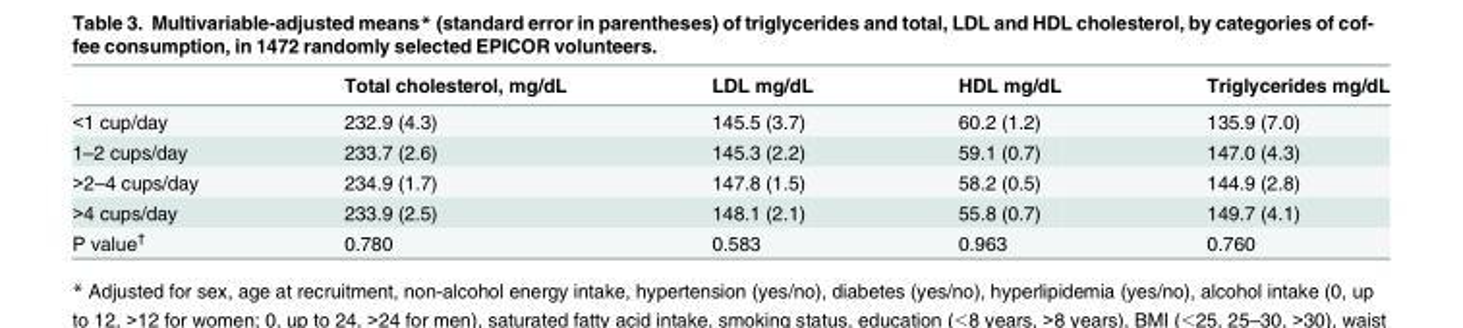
<table><thead><tr><td></td><td>Total cholesterol, mg/dL</td><td>LDL mg/dL</td><td>HDL mg/dL</td><td>Triglycerides mg/dL</td></tr></thead><tbody><tr><td>&lt;1 cup/day</td><td>232.9 (4.3)</td><td>145.5 (3.7)</td><td>60.2 (1.2)</td><td>135.9 (7.0)</td></tr><tr><td>1–2 cups/day</td><td>233.7 (2.6)</td><td>145.3 (2.2)</td><td>59.1 (0.7)</td><td>147.0 (4.3)</td></tr><tr><td>&gt;2–4 cups/day</td><td>234.9 (1.7)</td><td>147.8 (1.5)</td><td>58.2 (0.5)</td><td>144.9 (2.8)</td></tr><tr><td>&gt;4 cups/day</td><td>233.9 (2.5)</td><td>148.1 (2.1)</td><td>55.8 (0.7)</td><td>149.7 (4.1)</td></tr><tr><td>P value<sup>†</sup></td><td>0.780</td><td>0.583</td><td>0.963</td><td>0.760</td></tr></tbody></table>